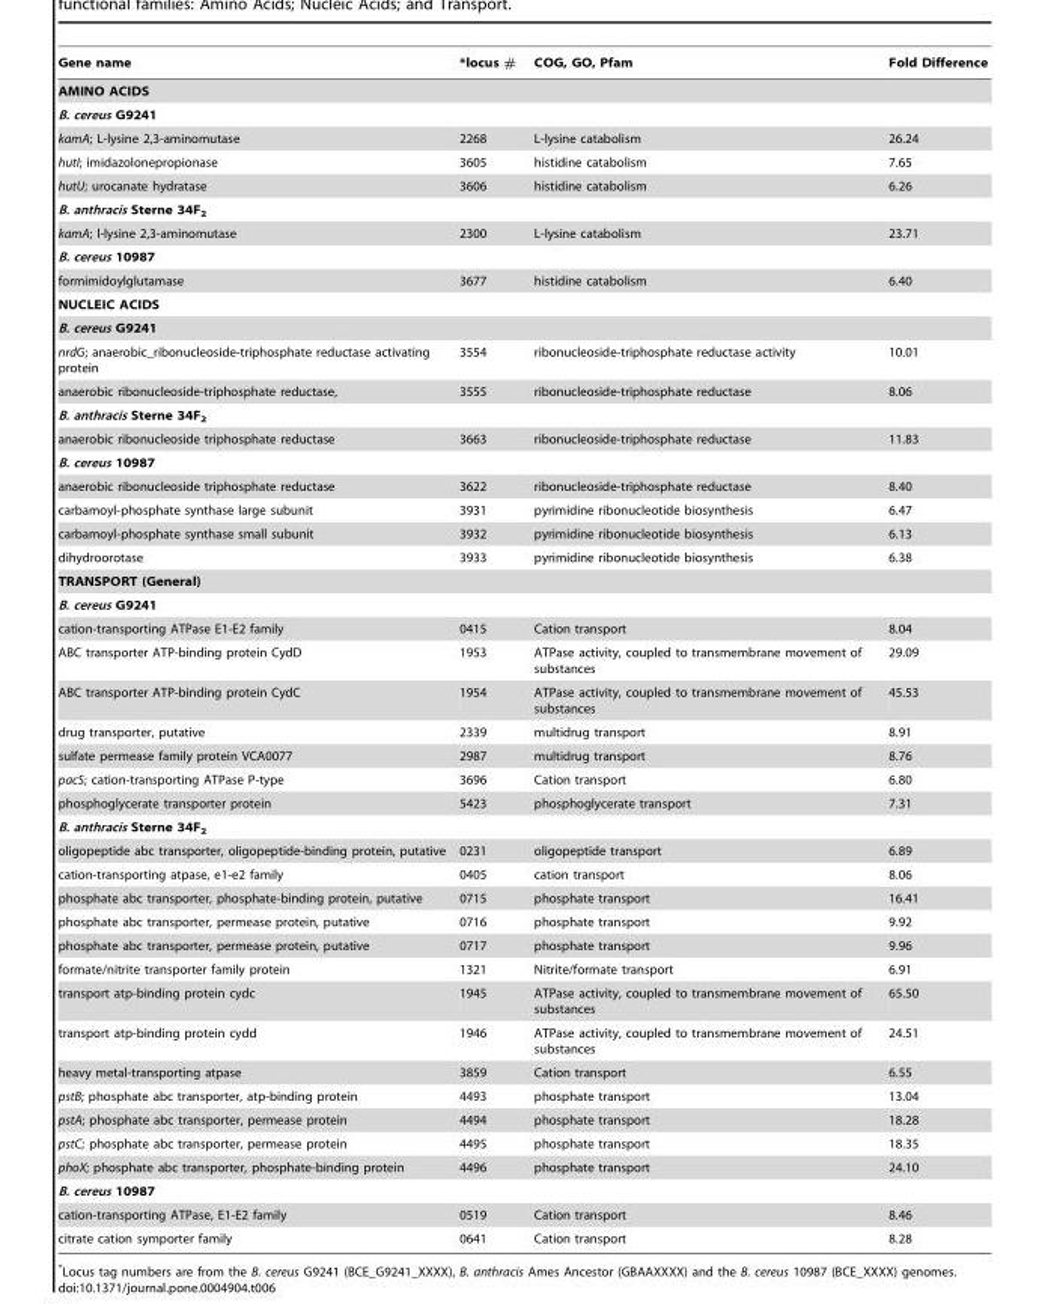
<table><thead><tr><td>Gene name</td><td>*locus #</td><td>COG, GO, Pfam</td><td>Fold Difference</td></tr></thead><tbody><tr><td colspan="4">AMINO ACIDS</td></tr><tr><td colspan="4">B. cereus G9241</td></tr><tr><td>kamA; L-lysine 2,3-aminomutase</td><td>2268</td><td>L-lysine catabolism</td><td>26.24</td></tr><tr><td>hutI; imidazolonepropionase</td><td>3605</td><td>histidine catabolism</td><td>7.65</td></tr><tr><td>hutU; urocanate hydratase</td><td>3606</td><td>histidine catabolism</td><td>6.26</td></tr><tr><td colspan="4">B. anthracis Sterne 34F<sub>2</sub></td></tr><tr><td>kamA; l-lysine 2,3-aminomutase</td><td>2300</td><td>L-lysine catabolism</td><td>23.71</td></tr><tr><td colspan="4">B. cereus 10987</td></tr><tr><td>formimidoylglutamase</td><td>3677</td><td>histidine catabolism</td><td>6.40</td></tr><tr><td colspan="4">NUCLEIC ACIDS</td></tr><tr><td colspan="4">B. cereus G9241</td></tr><tr><td>nrdG; anaerobic_ribonucleoside-triphosphate reductase activating protein</td><td>3554</td><td>ribonucleoside-triphosphate reductase activity</td><td>10.01</td></tr><tr><td>anaerobic ribonucleoside-triphosphate reductase,</td><td>3555</td><td>ribonucleoside-triphosphate reductase</td><td>8.06</td></tr><tr><td colspan="4">B. anthracis Sterne 34F<sub>2</sub></td></tr><tr><td>anaerobic ribonucleoside triphosphate reductase</td><td>3663</td><td>ribonucleoside-triphosphate reductase</td><td>11.83</td></tr><tr><td colspan="4">B. cereus 10987</td></tr><tr><td>anaerobic ribonucleoside triphosphate reductase</td><td>3622</td><td>ribonucleoside-triphosphate reductase</td><td>8.40</td></tr><tr><td>carbamoyl-phosphate synthase large subunit</td><td>3931</td><td>pyrimidine ribonucleotide biosynthesis</td><td>6.47</td></tr><tr><td>carbamoyl-phosphate synthase small subunit</td><td>3932</td><td>pyrimidine ribonucleotide biosynthesis</td><td>6.13</td></tr><tr><td>dihydroorotase</td><td>3933</td><td>pyrimidine ribonucleotide biosynthesis</td><td>6.38</td></tr><tr><td colspan="4">TRANSPORT (General)</td></tr><tr><td colspan="4">B. cereus G9241</td></tr><tr><td>cation-transporting ATPase E1-E2 family</td><td>0415</td><td>Cation transport</td><td>8.04</td></tr><tr><td>ABC transporter ATP-binding protein CydD</td><td>1953</td><td>ATPase activity, coupled to transmembrane movement of substances</td><td>29.09</td></tr><tr><td>ABC transporter ATP-binding protein CydC</td><td>1954</td><td>ATPase activity, coupled to transmembrane movement of substances</td><td>45.53</td></tr><tr><td>drug transporter, putative</td><td>2339</td><td>multidrug transport</td><td>8.91</td></tr><tr><td>sulfate permease family protein VCA0077</td><td>2987</td><td>multidrug transport</td><td>8.76</td></tr><tr><td>pacS; cation-transporting ATPase P-type</td><td>3696</td><td>Cation transport</td><td>6.80</td></tr><tr><td>phosphoglycerate transporter protein</td><td>5423</td><td>phosphoglycerate transport</td><td>7.31</td></tr><tr><td colspan="4">B. anthracis Sterne 34F<sub>2</sub></td></tr><tr><td>oligopeptide abc transporter, oligopeptide-binding protein, putative</td><td>0231</td><td>oligopeptide transport</td><td>6.89</td></tr><tr><td>cation-transporting atpase, e1-e2 family</td><td>0405</td><td>cation transport</td><td>8.06</td></tr><tr><td>phosphate abc transporter, phosphate-binding protein, putative</td><td>0715</td><td>phosphate transport</td><td>16.41</td></tr><tr><td>phosphate abc transporter, permease protein, putative</td><td>0716</td><td>phosphate transport</td><td>9.92</td></tr><tr><td>phosphate abc transporter, permease protein, putative</td><td>0717</td><td>phosphate transport</td><td>9.96</td></tr><tr><td>formate/nitrite transporter family protein</td><td>1321</td><td>Nitrite/formate transport</td><td>6.91</td></tr><tr><td>transport atp-binding protein cydc</td><td>1945</td><td>ATPase activity, coupled to transmembrane movement of substances</td><td>65.50</td></tr><tr><td>transport atp-binding protein cydd</td><td>1946</td><td>ATPase activity, coupled to transmembrane movement of substances</td><td>24.51</td></tr><tr><td>heavy metal-transporting atpase</td><td>3859</td><td>Cation transport</td><td>6.55</td></tr><tr><td>pstB; phosphate abc transporter, atp-binding protein</td><td>4493</td><td>phosphate transport</td><td>13.04</td></tr><tr><td>pstA; phosphate abc transporter, permease protein</td><td>4494</td><td>phosphate transport</td><td>18.28</td></tr><tr><td>pstC; phosphate abc transporter, permease protein</td><td>4495</td><td>phosphate transport</td><td>18.35</td></tr><tr><td>phoX; phosphate abc transporter, phosphate-binding protein</td><td>4496</td><td>phosphate transport</td><td>24.10</td></tr><tr><td colspan="4">B. cereus 10987</td></tr><tr><td>cation-transporting ATPase, E1-E2 family</td><td>0519</td><td>Cation transport</td><td>8.46</td></tr><tr><td>citrate cation symporter family</td><td>0641</td><td>Cation transport</td><td>8.28</td></tr></tbody></table>